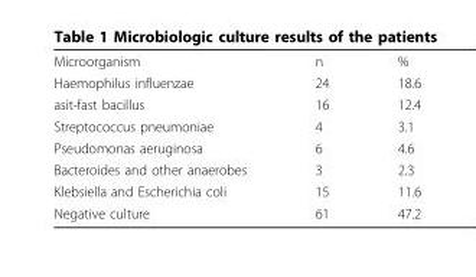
<table><tbody><tr><td>Microorganism</td><td>n</td><td>%</td></tr><tr><td>Haemophilus influenzae</td><td>24</td><td>18.6</td></tr><tr><td>asit-fast bacillus</td><td>16</td><td>12.4</td></tr><tr><td>Streptococcus pneumoniae</td><td>4</td><td>3.1</td></tr><tr><td>Pseudomonas aeruginosa</td><td>6</td><td>4.6</td></tr><tr><td>Bacteroides and other anaerobes</td><td>3</td><td>2.3</td></tr><tr><td>Klebsiella and Escherichia coli</td><td>15</td><td>11.6</td></tr><tr><td>Negative culture</td><td>61</td><td>47.2</td></tr></tbody></table>